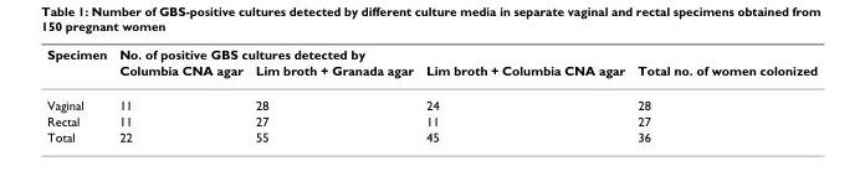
<table><thead><tr><td rowspan="2">Specimen</td><td colspan="4">No. of positive GBS cultures detected by</td></tr><tr><td>Columbia CNA agar</td><td>Lim broth + Granada agar</td><td>Lim broth + Columbia CNA agar</td><td>Total no. of women colonized</td></tr></thead><tbody><tr><td>Vaginal</td><td>11</td><td>28</td><td>24</td><td>28</td></tr><tr><td>Rectal</td><td>11</td><td>27</td><td>11</td><td>27</td></tr><tr><td>Total</td><td>22</td><td>55</td><td>45</td><td>36</td></tr></tbody></table>